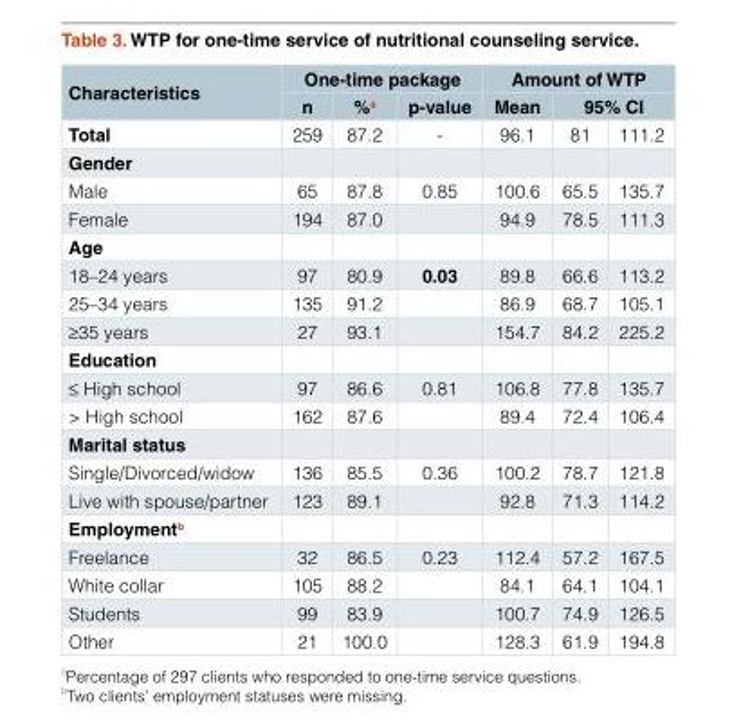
<table><thead><tr><td rowspan="3">Characteristics Total</td><td colspan="3">One-time package</td><td colspan="3">Amount of WTP</td></tr><tr><td rowspan="2">n 259</td><td rowspan="2">%<sup>a</sup> 87.2</td><td rowspan="2">p-value -</td><td rowspan="2">Mean 96.1</td><td colspan="2">95% CI</td></tr><tr><td>81</td><td>111.2</td></tr></thead><tbody><tr><td colspan="7">Gender</td></tr><tr><td>Male</td><td>65</td><td>87.8</td><td>0.85</td><td>100.6</td><td>65.5</td><td>135.7</td></tr><tr><td>Female</td><td>194</td><td>87.0</td><td></td><td>94.9</td><td>78.5</td><td>111.3</td></tr><tr><td colspan="7">Age</td></tr><tr><td>18–24 years</td><td>97</td><td>80.9</td><td>0.03</td><td>89.8</td><td>66.6</td><td>113.2</td></tr><tr><td>25–34 years</td><td>135</td><td>91.2</td><td></td><td>86.9</td><td>68.7</td><td>105.1</td></tr><tr><td>≥35 years</td><td>27</td><td>93.1</td><td></td><td>154.7</td><td>84.2</td><td>225.2</td></tr><tr><td colspan="7">Education</td></tr><tr><td>≤ High school</td><td>97</td><td>86.6</td><td>0.81</td><td>106.8</td><td>77.8</td><td>135.7</td></tr><tr><td>&gt; High school</td><td>162</td><td>87.6</td><td></td><td>89.4</td><td>72.4</td><td>106.4</td></tr><tr><td colspan="7">Marital status</td></tr><tr><td>Single/Divorced/widow</td><td>136</td><td>85.5</td><td>0.36</td><td>100.2</td><td>78.7</td><td>121.8</td></tr><tr><td>Live with spouse/partner</td><td>123</td><td>89.1</td><td></td><td>92.8</td><td>71.3</td><td>114.2</td></tr><tr><td colspan="7">Employment<sup>b</sup></td></tr><tr><td>Freelance</td><td>32</td><td>86.5</td><td>0.23</td><td>112.4</td><td>57.2</td><td>167.5</td></tr><tr><td>White collar</td><td>105</td><td>88.2</td><td></td><td>84.1</td><td>64.1</td><td>104.1</td></tr><tr><td>Students</td><td>99</td><td>83.9</td><td></td><td>100.7</td><td>74.9</td><td>126.5</td></tr><tr><td>Other</td><td>21</td><td>100.0</td><td></td><td>128.3</td><td>61.9</td><td>194.8</td></tr></tbody></table>